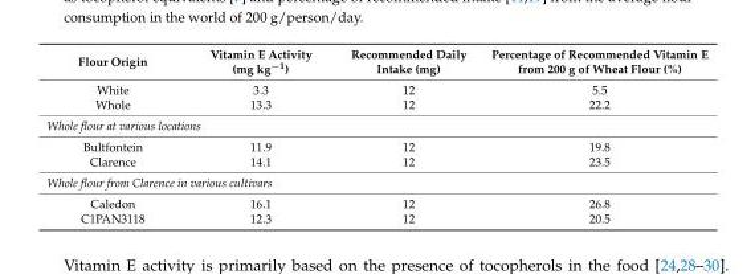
<table><thead><tr><td>Flour Origin</td><td>Vitamin E Activity (mg kg<sup>−1</sup>)</td><td>Recommended Daily Intake (mg)</td><td>Percentage of Recommended Vitamin E from 200 g of Wheat Flour (%)</td></tr></thead><tbody><tr><td>White</td><td>3.3</td><td>12</td><td>5.5</td></tr><tr><td>Whole</td><td>13.3</td><td>12</td><td>22.2</td></tr><tr><td colspan="4">Whole flour at various locations</td></tr><tr><td>Bultfontein</td><td>11.9</td><td>12</td><td>19.8</td></tr><tr><td>Clarence</td><td>14.1</td><td>12</td><td>23.5</td></tr><tr><td colspan="4">Whole flour from Clarence in various cultivars</td></tr><tr><td>Caledon</td><td>16.1</td><td>12</td><td>26.8</td></tr><tr><td>C1PAN3118</td><td>12.3</td><td>12</td><td>20.5</td></tr></tbody></table>